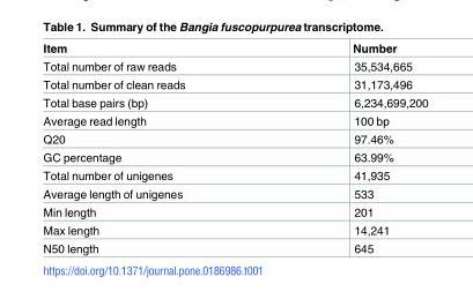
<table><thead><tr><td>Item</td><td>Number</td></tr></thead><tbody><tr><td>Total number of raw reads</td><td>35,534,665</td></tr><tr><td>Total number of clean reads</td><td>31,173,496</td></tr><tr><td>Total base pairs (bp)</td><td>6,234,699,200</td></tr><tr><td>Average read length</td><td>100 bp</td></tr><tr><td>Q20</td><td>97.46%</td></tr><tr><td>GC percentage</td><td>63.99%</td></tr><tr><td>Total number of unigenes</td><td>41,935</td></tr><tr><td>Average length of unigenes</td><td>533</td></tr><tr><td>Min length</td><td>201</td></tr><tr><td>Max length</td><td>14,241</td></tr><tr><td>N50 length</td><td>645</td></tr></tbody></table>